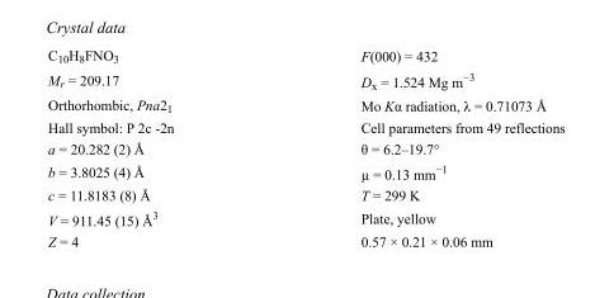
<table><tbody><tr><td>C<sub>10</sub>H<sub>8</sub>FNO<sub>3</sub></td><td>F(000) = 432</td></tr><tr><td>M<sub>r</sub> = 209.17</td><td>D<sub>x</sub> = 1.524 Mg m<sup>−3</sup></td></tr><tr><td>Orthorhombic, Pna2<sub>1</sub></td><td>Mo Kα radiation, λ = 0.71073 Å</td></tr><tr><td>Hall symbol: P 2c -2n</td><td>Cell parameters from 49 reflections</td></tr><tr><td>a = 20.282 (2) Å</td><td>θ = 6.2–19.7°</td></tr><tr><td>b = 3.8025 (4) Å</td><td>µ = 0.13 mm<sup>−1</sup></td></tr><tr><td>c = 11.8183 (8) Å</td><td>T = 299 K</td></tr><tr><td>V = 911.45 (15) Å<sup>3</sup></td><td>Plate, yellow</td></tr><tr><td>Z = 4</td><td>0.57 × 0.21 × 0.06 mm</td></tr></tbody></table>